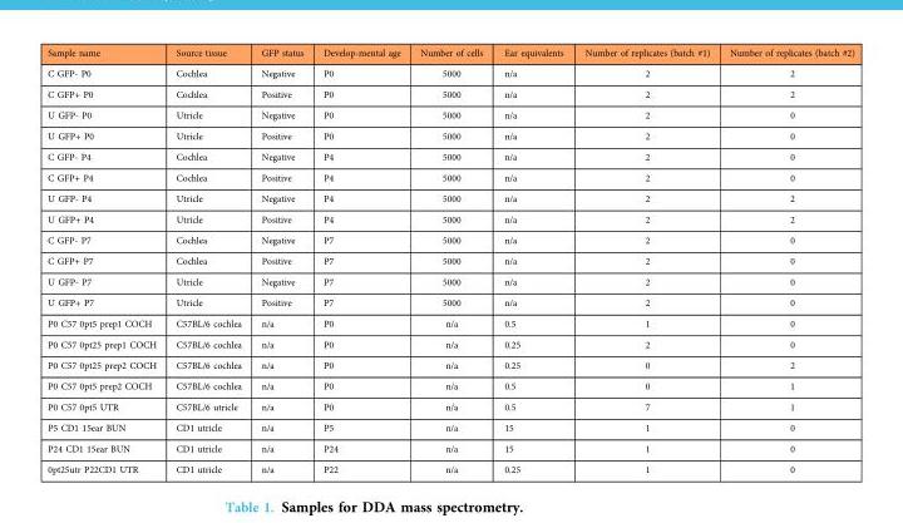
<table><thead><tr><td>Sample name</td><td>Source tissue</td><td>GFP status</td><td>Develop-mental age</td><td>Number of cells</td><td>Ear equivalents</td><td>Number of replicates (batch #1)</td><td>Number of replicates (batch #2)</td></tr></thead><tbody><tr><td>C GFP- P0</td><td>Cochlea</td><td>Negative</td><td>P0</td><td>5000</td><td>n/a</td><td>2</td><td>2</td></tr><tr><td>C GFP+ P0</td><td>Cochlea</td><td>Positive</td><td>P0</td><td>5000</td><td>n/a</td><td>2</td><td>2</td></tr><tr><td>U GFP- P0</td><td>Utricle</td><td>Negative</td><td>P0</td><td>5000</td><td>n/a</td><td>2</td><td>0</td></tr><tr><td>U GFP+ P0</td><td>Utricle</td><td>Positive</td><td>P0</td><td>5000</td><td>n/a</td><td>2</td><td>0</td></tr><tr><td>C GFP- P4</td><td>Cochlea</td><td>Negative</td><td>P4</td><td>5000</td><td>n/a</td><td>2</td><td>0</td></tr><tr><td>C GFP+ P4</td><td>Cochlea</td><td>Positive</td><td>P4</td><td>5000</td><td>n/a</td><td>2</td><td>0</td></tr><tr><td>U GFP- P4</td><td>Utricle</td><td>Negative</td><td>P4</td><td>5000</td><td>n/a</td><td>2</td><td>2</td></tr><tr><td>U GFP+ P4</td><td>Utricle</td><td>Positive</td><td>P4</td><td>5000</td><td>n/a</td><td>2</td><td>2</td></tr><tr><td>C GFP- P7</td><td>Cochlea</td><td>Negative</td><td>P7</td><td>5000</td><td>n/a</td><td>2</td><td>0</td></tr><tr><td>C GFP+ P7</td><td>Cochlea</td><td>Positive</td><td>P7</td><td>5000</td><td>n/a</td><td>2</td><td>0</td></tr><tr><td>U GFP- P7</td><td>Utricle</td><td>Negative</td><td>P7</td><td>5000</td><td>n/a</td><td>2</td><td>0</td></tr><tr><td>U GFP+ P7</td><td>Utricle</td><td>Positive</td><td>P7</td><td>5000</td><td>n/a</td><td>2</td><td>0</td></tr><tr><td>P0 C57 0pt5 prep1 COCH</td><td>C57BL/6 cochlea</td><td>n/a</td><td>P0</td><td>n/a</td><td>0.5</td><td>1</td><td>0</td></tr><tr><td>P0 C57 0pt25 prep1 COCH</td><td>C57BL/6 cochlea</td><td>n/a</td><td>P0</td><td>n/a</td><td>0.25</td><td>2</td><td>0</td></tr><tr><td>P0 C57 0pt25 prep2 COCH</td><td>C57BL/6 cochlea</td><td>n/a</td><td>P0</td><td>n/a</td><td>0.25</td><td>0</td><td>2</td></tr><tr><td>P0 C57 0pt5 prep2 COCH</td><td>C57BL/6 cochlea</td><td>n/a</td><td>P0</td><td>n/a</td><td>0.5</td><td>0</td><td>1</td></tr><tr><td>P0 C57 0pt5 UTR</td><td>C57BL/6 utricle</td><td>n/a</td><td>P0</td><td>n/a</td><td>0.5</td><td>7</td><td>1</td></tr><tr><td>P5 CD1 15ear BUN</td><td>CD1 utricle</td><td>n/a</td><td>P5</td><td>n/a</td><td>15</td><td>1</td><td>0</td></tr><tr><td>P24 CD1 15ear BUN</td><td>CD1 utricle</td><td>n/a</td><td>P24</td><td>n/a</td><td>15</td><td>1</td><td>0</td></tr><tr><td>0pt25utr P22CD1 UTR</td><td>CD1 utricle</td><td>n/a</td><td>P22</td><td>n/a</td><td>0.25</td><td>1</td><td>0</td></tr></tbody></table>